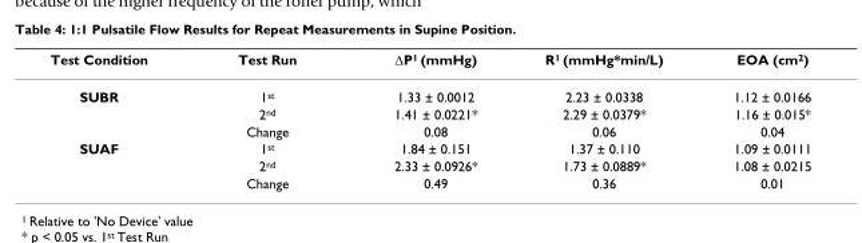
<table><thead><tr><td>Test Condition</td><td>Test Run</td><td>ΔP<sup>1</sup> (mmHg)</td><td>R<sup>1</sup> (mmHg*min/L)</td><td>EOA (cm<sup>2</sup>)</td></tr></thead><tbody><tr><td rowspan="3">SUBR</td><td>1<sup>st</sup></td><td>1.33 ± 0.0012</td><td>2.23 ± 0.0338</td><td>1.12 ± 0.0166</td></tr><tr><td>2<sup>nd</sup></td><td>1.41 ± 0.0221*</td><td>2.29 ± 0.0379*</td><td>1.16 ± 0.015*</td></tr><tr><td>Change</td><td>0.08</td><td>0.06</td><td>0.04</td></tr><tr><td rowspan="3">SUAF</td><td>1<sup>st</sup></td><td>1.84 ± 0.151</td><td>1.37 ± 0.110</td><td>1.09 ± 0.0111</td></tr><tr><td>2<sup>nd</sup></td><td>2.33 ± 0.0926*</td><td>1.73 ± 0.0889*</td><td>1.08 ± 0.0215</td></tr><tr><td>Change</td><td>0.49</td><td>0.36</td><td>0.01</td></tr></tbody></table>